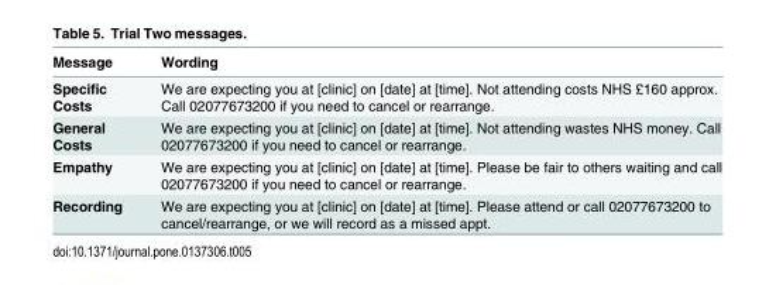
<table><thead><tr><td>Message</td><td>Wording</td></tr></thead><tbody><tr><td>Specific Costs</td><td>We are expecting you at [clinic] on [date] at [time]. Not attending costs NHS £160 approx. Call 02077673200 if you need to cancel or rearrange.</td></tr><tr><td>General Costs</td><td>We are expecting you at [clinic] on [date] at [time]. Not attending wastes NHS money. Call 02077673200 if you need to cancel or rearrange.</td></tr><tr><td>Empathy</td><td>We are expecting you at [clinic] on [date] at [time]. Please be fair to others waiting and call 02077673200 if you need to cancel or rearrange.</td></tr><tr><td>Recording</td><td>We are expecting you at [clinic] on [date] at [time]. Please attend or call 02077673200 to cancel/rearrange, or we will record as a missed appt.</td></tr></tbody></table>